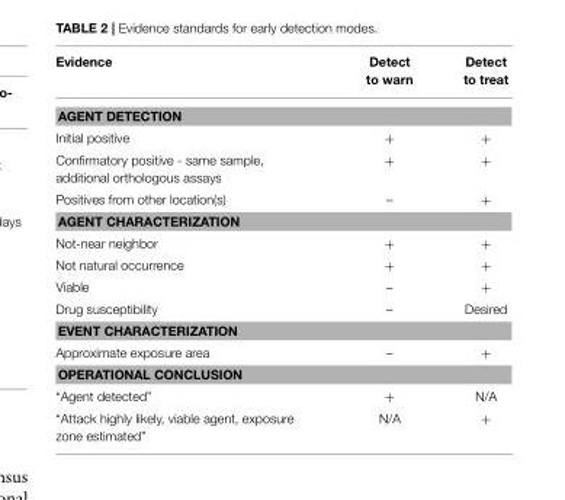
<table><thead><tr><td>Evidence</td><td>Detect to warn</td><td>Detect to treat</td></tr></thead><tbody><tr><td colspan="3">AGENT DETECTION</td></tr><tr><td>Initial positive</td><td>+</td><td>+</td></tr><tr><td>Confirmatory positive - same sample, additional orthologous assays</td><td>+</td><td>+</td></tr><tr><td>Positives from other location(s)</td><td>–</td><td>+</td></tr><tr><td colspan="3">AGENT CHARACTERIZATION</td></tr><tr><td>Not-near neighbor</td><td>+</td><td>+</td></tr><tr><td>Not natural occurrence</td><td>+</td><td>+</td></tr><tr><td>Viable</td><td>–</td><td>+</td></tr><tr><td>Drug susceptibility</td><td>–</td><td>Desired</td></tr><tr><td colspan="3">EVENT CHARACTERIZATION</td></tr><tr><td>Approximate exposure area</td><td>–</td><td>+</td></tr><tr><td colspan="3">OPERATIONAL CONCLUSION</td></tr><tr><td>“Agent detected”</td><td>+</td><td>N/A</td></tr><tr><td>“Attack highly likely, viable agent, exposure zone estimated”</td><td>N/A</td><td>+</td></tr></tbody></table>